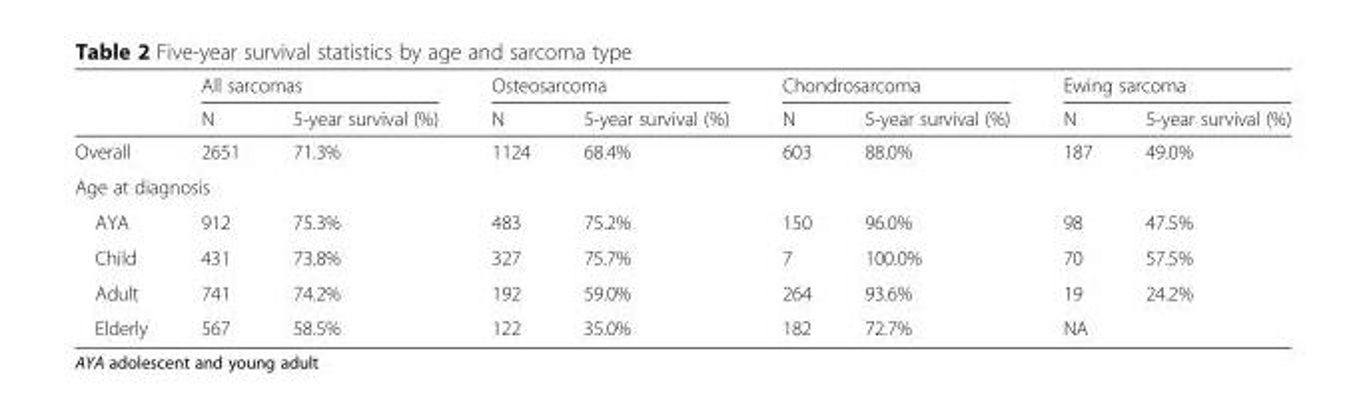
<table><thead><tr><td rowspan="2"></td><td colspan="2">All sarcomas</td><td colspan="2">Osteosarcoma</td><td colspan="2">Chondrosarcoma</td><td colspan="2">Ewing sarcoma</td></tr><tr><td>N</td><td>5-year survival (%)</td><td>N</td><td>5-year survival (%)</td><td>N</td><td>5-year survival (%)</td><td>N</td><td>5-year survival (%)</td></tr></thead><tbody><tr><td>Overall</td><td>2651</td><td>71.3%</td><td>1124</td><td>68.4%</td><td>603</td><td>88.0%</td><td>187</td><td>49.0%</td></tr><tr><td colspan="9">Age at diagnosis</td></tr><tr><td>AYA</td><td>912</td><td>75.3%</td><td>483</td><td>75.2%</td><td>150</td><td>96.0%</td><td>98</td><td>47.5%</td></tr><tr><td>Child</td><td>431</td><td>73.8%</td><td>327</td><td>75.7%</td><td>7</td><td>100.0%</td><td>70</td><td>57.5%</td></tr><tr><td>Adult</td><td>741</td><td>74.2%</td><td>192</td><td>59.0%</td><td>264</td><td>93.6%</td><td>19</td><td>24.2%</td></tr><tr><td>Elderly</td><td>567</td><td>58.5%</td><td>122</td><td>35.0%</td><td>182</td><td>72.7%</td><td>NA</td><td></td></tr></tbody></table>